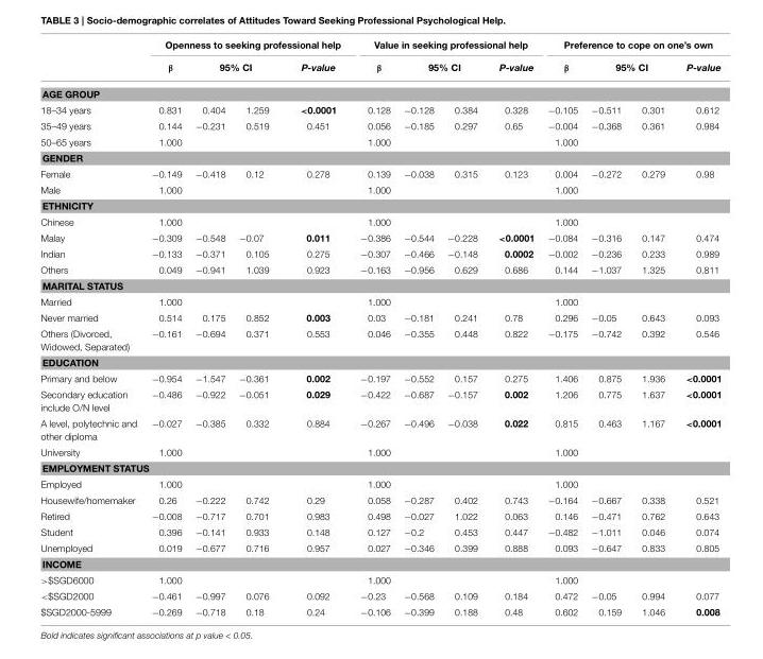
<table><thead><tr><td rowspan="2"></td><td colspan="4">Openness to seeking professional help</td><td colspan="4">Value in seeking professional help</td><td colspan="4">Preference to cope on one’s own</td></tr><tr><td>β</td><td colspan="2">95% CI</td><td>P-value</td><td>β</td><td colspan="2">95% CI</td><td>P-value</td><td>β</td><td colspan="2">95% CI</td><td>P-value</td></tr><tr><td colspan="13">AGE GROUP</td></tr><tr><td>18–34 years</td><td>0.831</td><td>0.404</td><td>1.259</td><td>&lt;0.0001</td><td>0.128</td><td>−0.128</td><td>0.384</td><td>0.328</td><td>−0.105</td><td>−0.511</td><td>0.301</td><td>0.612</td></tr></thead><tbody><tr><td>35–49 years</td><td>0.144</td><td>−0.231</td><td>0.519</td><td>0.451</td><td>0.056</td><td>−0.185</td><td>0.297</td><td>0.65</td><td>−0.004</td><td>−0.368</td><td>0.361</td><td>0.984</td></tr><tr><td>50–65 years</td><td>1.000</td><td></td><td></td><td></td><td>1.000</td><td></td><td></td><td></td><td>1.000</td><td></td><td></td><td></td></tr><tr><td colspan="13">GENDER</td></tr><tr><td>Female</td><td>−0.149</td><td>−0.418</td><td>0.12</td><td>0.278</td><td>0.139</td><td>−0.038</td><td>0.315</td><td>0.123</td><td>0.004</td><td>−0.272</td><td>0.279</td><td>0.98</td></tr><tr><td>Male</td><td>1.000</td><td></td><td></td><td></td><td>1.000</td><td></td><td></td><td></td><td>1.000</td><td></td><td></td><td></td></tr><tr><td colspan="13">ETHNICITY</td></tr><tr><td>Chinese</td><td>1.000</td><td></td><td></td><td></td><td>1.000</td><td></td><td></td><td></td><td>1.000</td><td></td><td></td><td></td></tr><tr><td>Malay</td><td>−0.309</td><td>−0.548</td><td>−0.07</td><td>0.011</td><td>−0.386</td><td>−0.544</td><td>−0.228</td><td>&lt;0.0001</td><td>−0.084</td><td>−0.316</td><td>0.147</td><td>0.474</td></tr><tr><td>Indian</td><td>−0.133</td><td>−0.371</td><td>0.105</td><td>0.275</td><td>−0.307</td><td>−0.466</td><td>−0.148</td><td>0.0002</td><td>−0.002</td><td>−0.236</td><td>0.233</td><td>0.989</td></tr><tr><td>Others</td><td>0.049</td><td>−0.941</td><td>1.039</td><td>0.923</td><td>−0.163</td><td>−0.956</td><td>0.629</td><td>0.686</td><td>0.144</td><td>−1.037</td><td>1.325</td><td>0.811</td></tr><tr><td colspan="13">MARITAL STATUS</td></tr><tr><td>Married</td><td>1.000</td><td></td><td></td><td></td><td>1.000</td><td></td><td></td><td></td><td>1.000</td><td></td><td></td><td></td></tr><tr><td>Never married</td><td>0.514</td><td>0.175</td><td>0.852</td><td>0.003</td><td>0.03</td><td>−0.181</td><td>0.241</td><td>0.78</td><td>0.296</td><td>−0.05</td><td>0.643</td><td>0.093</td></tr><tr><td>Others (Divorced, Widowed, Separated)</td><td>−0.161</td><td>−0.694</td><td>0.371</td><td>0.553</td><td>0.046</td><td>−0.355</td><td>0.448</td><td>0.822</td><td>−0.175</td><td>−0.742</td><td>0.392</td><td>0.546</td></tr><tr><td colspan="13">EDUCATION</td></tr><tr><td>Primary and below</td><td>−0.954</td><td>−1.547</td><td>−0.361</td><td>0.002</td><td>−0.197</td><td>−0.552</td><td>0.157</td><td>0.275</td><td>1.406</td><td>0.875</td><td>1.936</td><td>&lt;0.0001</td></tr><tr><td>Secondary education include O/N level</td><td>−0.486</td><td>−0.922</td><td>−0.051</td><td>0.029</td><td>−0.422</td><td>−0.687</td><td>−0.157</td><td>0.002</td><td>1.206</td><td>0.775</td><td>1.637</td><td>&lt;0.0001</td></tr><tr><td>A level, polytechnic and other diploma</td><td>−0.027</td><td>−0.385</td><td>0.332</td><td>0.884</td><td>−0.267</td><td>−0.496</td><td>−0.038</td><td>0.022</td><td>0.815</td><td>0.463</td><td>1.167</td><td>&lt;0.0001</td></tr><tr><td>University</td><td>1.000</td><td></td><td></td><td></td><td>1.000</td><td></td><td></td><td></td><td>1.000</td><td></td><td></td><td></td></tr><tr><td colspan="13">EMPLOYMENT STATUS</td></tr><tr><td>Employed</td><td>1.000</td><td></td><td></td><td></td><td>1.000</td><td></td><td></td><td></td><td>1.000</td><td></td><td></td><td></td></tr><tr><td>Housewife/homemaker</td><td>0.26</td><td>−0.222</td><td>0.742</td><td>0.29</td><td>0.058</td><td>−0.287</td><td>0.402</td><td>0.743</td><td>−0.164</td><td>−0.667</td><td>0.338</td><td>0.521</td></tr><tr><td>Retired</td><td>−0.008</td><td>−0.717</td><td>0.701</td><td>0.983</td><td>0.498</td><td>−0.027</td><td>1.022</td><td>0.063</td><td>0.146</td><td>−0.471</td><td>0.762</td><td>0.643</td></tr><tr><td>Student</td><td>0.396</td><td>−0.141</td><td>0.933</td><td>0.148</td><td>0.127</td><td>−0.2</td><td>0.453</td><td>0.447</td><td>−0.482</td><td>−1.011</td><td>0.046</td><td>0.074</td></tr><tr><td>Unemployed</td><td>0.019</td><td>−0.677</td><td>0.716</td><td>0.957</td><td>0.027</td><td>−0.346</td><td>0.399</td><td>0.888</td><td>0.093</td><td>−0.647</td><td>0.833</td><td>0.805</td></tr><tr><td colspan="13">INCOME</td></tr><tr><td>&gt;$SGD6000</td><td>1.000</td><td></td><td></td><td></td><td>1.000</td><td></td><td></td><td></td><td>1.000</td><td></td><td></td><td></td></tr><tr><td>&lt;$SGD2000</td><td>−0.461</td><td>−0.997</td><td>0.076</td><td>0.092</td><td>−0.23</td><td>−0.568</td><td>0.109</td><td>0.184</td><td>0.472</td><td>−0.05</td><td>0.994</td><td>0.077</td></tr><tr><td>$SGD2000-5999</td><td>−0.269</td><td>−0.718</td><td>0.18</td><td>0.24</td><td>−0.106</td><td>−0.399</td><td>0.188</td><td>0.48</td><td>0.602</td><td>0.159</td><td>1.046</td><td>0.008</td></tr></tbody></table>